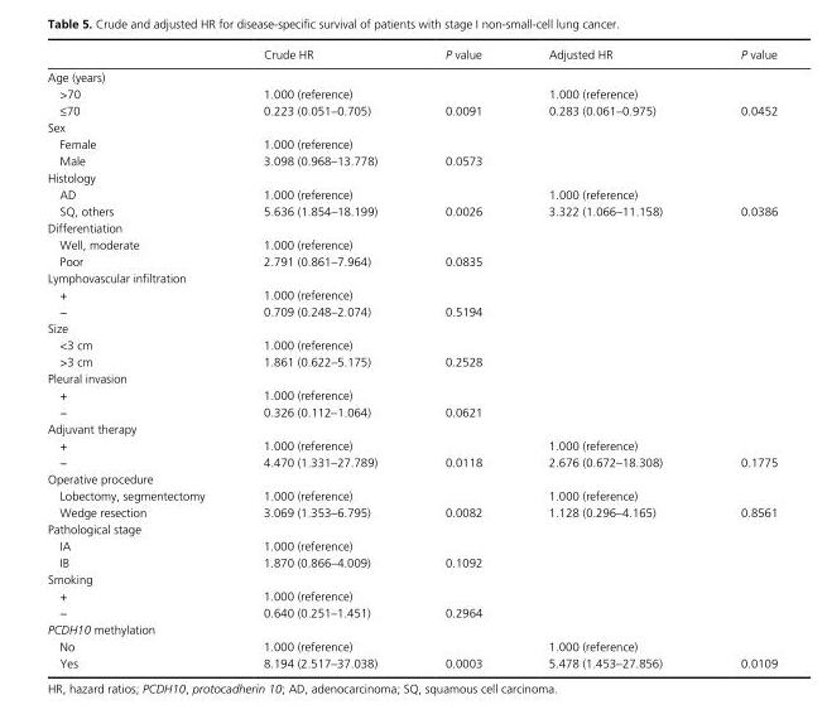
<table><thead><tr><td></td><td>Crude HR</td><td>P value</td><td>Adjusted HR</td><td>P value</td></tr></thead><tbody><tr><td colspan="5">Age (years)</td></tr><tr><td>&gt;70</td><td>1.000 (reference)</td><td></td><td>1.000 (reference)</td><td></td></tr><tr><td>≤70</td><td>0.223 (0.051–0.705)</td><td>0.0091</td><td>0.283 (0.061–0.975)</td><td>0.0452</td></tr><tr><td colspan="5">Sex</td></tr><tr><td>Female</td><td>1.000 (reference)</td><td></td><td></td><td></td></tr><tr><td>Male</td><td>3.098 (0.968–13.778)</td><td>0.0573</td><td></td><td></td></tr><tr><td colspan="5">Histology</td></tr><tr><td>AD</td><td>1.000 (reference)</td><td></td><td>1.000 (reference)</td><td></td></tr><tr><td>SQ, others</td><td>5.636 (1.854–18.199)</td><td>0.0026</td><td>3.322 (1.066–11.158)</td><td>0.0386</td></tr><tr><td colspan="5">Differentiation</td></tr><tr><td>Well, moderate</td><td>1.000 (reference)</td><td></td><td></td><td></td></tr><tr><td>Poor</td><td>2.791 (0.861–7.964)</td><td>0.0835</td><td></td><td></td></tr><tr><td colspan="5">Lymphovascular infiltration</td></tr><tr><td>+</td><td>1.000 (reference)</td><td></td><td></td><td></td></tr><tr><td>−</td><td>0.709 (0.248–2.074)</td><td>0.5194</td><td></td><td></td></tr><tr><td colspan="5">Size</td></tr><tr><td>&lt;3 cm</td><td>1.000 (reference)</td><td></td><td></td><td></td></tr><tr><td>&gt;3 cm</td><td>1.861 (0.622–5.175)</td><td>0.2528</td><td></td><td></td></tr><tr><td colspan="5">Pleural invasion</td></tr><tr><td>+</td><td>1.000 (reference)</td><td></td><td></td><td></td></tr><tr><td>−</td><td>0.326 (0.112–1.064)</td><td>0.0621</td><td></td><td></td></tr><tr><td colspan="5">Adjuvant therapy</td></tr><tr><td>+</td><td>1.000 (reference)</td><td></td><td>1.000 (reference)</td><td></td></tr><tr><td>−</td><td>4.470 (1.331–27.789)</td><td>0.0118</td><td>2.676 (0.672–18.308)</td><td>0.1775</td></tr><tr><td colspan="5">Operative procedure</td></tr><tr><td>Lobectomy, segmentectomy</td><td>1.000 (reference)</td><td></td><td>1.000 (reference)</td><td></td></tr><tr><td>Wedge resection</td><td>3.069 (1.353–6.795)</td><td>0.0082</td><td>1.128 (0.296–4.165)</td><td>0.8561</td></tr><tr><td colspan="5">Pathological stage</td></tr><tr><td>IA</td><td>1.000 (reference)</td><td></td><td></td><td></td></tr><tr><td>IB</td><td>1.870 (0.866–4.009)</td><td>0.1092</td><td></td><td></td></tr><tr><td colspan="5">Smoking</td></tr><tr><td>+</td><td>1.000 (reference)</td><td></td><td></td><td></td></tr><tr><td>−</td><td>0.640 (0.251–1.451)</td><td>0.2964</td><td></td><td></td></tr><tr><td colspan="5">PCDH10 methylation</td></tr><tr><td>No</td><td>1.000 (reference)</td><td></td><td>1.000 (reference)</td><td></td></tr><tr><td>Yes</td><td>8.194 (2.517–37.038)</td><td>0.0003</td><td>5.478 (1.453–27.856)</td><td>0.0109</td></tr></tbody></table>